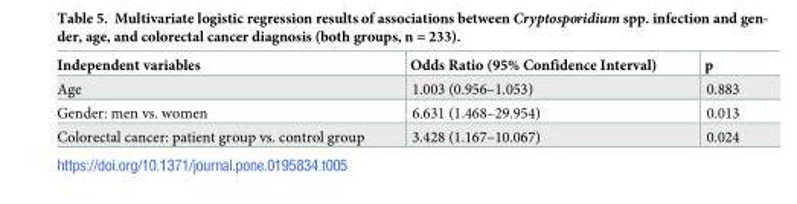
<table><thead><tr><td>Independent variables</td><td>Odds Ratio (95% Confidence Interval)</td><td>p</td></tr></thead><tbody><tr><td>Age</td><td>1.003 (0.956–1.053)</td><td>0.883</td></tr><tr><td>Gender: men vs. women</td><td>6.631 (1.468–29.954)</td><td>0.013</td></tr><tr><td>Colorectal cancer: patient group vs. control group</td><td>3.428 (1.167–10.067)</td><td>0.024</td></tr></tbody></table>